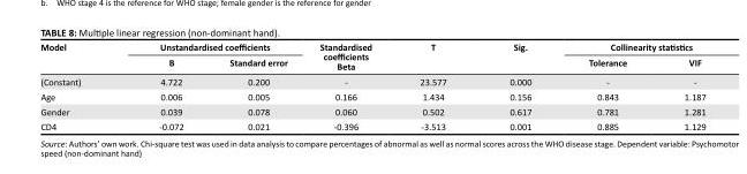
<table><thead><tr><td rowspan="2">Model</td><td colspan="2">Unstandardised coefficients</td><td rowspan="2">Standardised coefficients Beta</td><td rowspan="2">T</td><td rowspan="2">Sig.</td><td colspan="2">Collinearity statistics</td></tr><tr><td>B</td><td>Standard error</td><td>Tolerance</td><td>VIF</td></tr></thead><tbody><tr><td>(Constant)</td><td>4.722</td><td>0.200</td><td>-</td><td>23.577</td><td>0.000</td><td>-</td><td>-</td></tr><tr><td>Age</td><td>0.006</td><td>0.005</td><td>0.166</td><td>1.434</td><td>0.156</td><td>0.843</td><td>1.187</td></tr><tr><td>Gender</td><td>0.039</td><td>0.078</td><td>0.060</td><td>0.502</td><td>0.617</td><td>0.781</td><td>1.281</td></tr><tr><td>CD4</td><td>-0.072</td><td>0.021</td><td>-0.396</td><td>-3.513</td><td>0.001</td><td>0.885</td><td>1.129</td></tr></tbody></table>